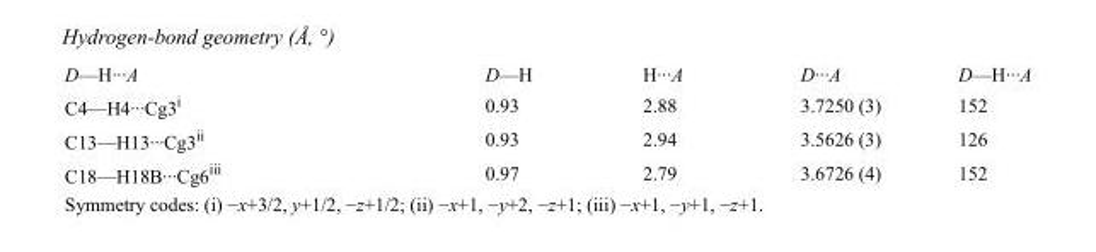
<table><tbody><tr><td>D—H···A</td><td>D—H</td><td>H···A</td><td>D···A</td><td>D—H···A</td></tr><tr><td>C4—H4···Cg3<sup>i</sup></td><td>0.93</td><td>2.88</td><td>3.7250 (3)</td><td>152</td></tr><tr><td>C13—H13···Cg3<sup>ii</sup></td><td>0.93</td><td>2.94</td><td>3.5626 (3)</td><td>126</td></tr><tr><td>C18—H18B···Cg6<sup>iii</sup></td><td>0.97</td><td>2.79</td><td>3.6726 (4)</td><td>152</td></tr></tbody></table>